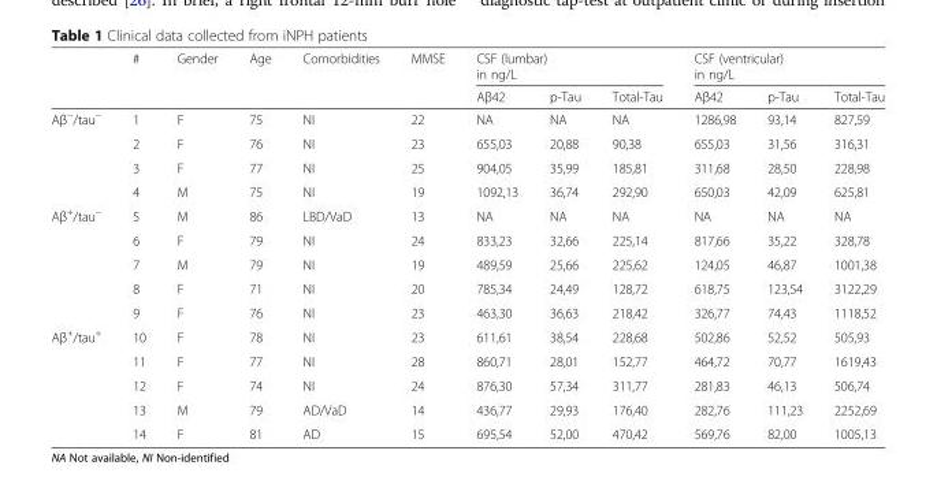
<table><thead><tr><td rowspan="2"></td><td rowspan="2">#</td><td rowspan="2">Gender</td><td rowspan="2">Age</td><td rowspan="2">Comorbidities</td><td rowspan="2">MMSE</td><td colspan="3">CSF (lumbar) in ng/L</td><td colspan="3">CSF (ventricular) in ng/L</td></tr><tr><td>Aβ42</td><td>p-Tau</td><td>Total-Tau</td><td>Aβ42</td><td>p-Tau</td><td>Total-Tau</td></tr></thead><tbody><tr><td rowspan="4">Aβ<sup>−</sup>/tau<sup>−</sup></td><td>1</td><td>F</td><td>75</td><td>NI</td><td>22</td><td>NA</td><td>NA</td><td>NA</td><td>1286,98</td><td>93,14</td><td>827,59</td></tr><tr><td>2</td><td>F</td><td>76</td><td>NI</td><td>23</td><td>655,03</td><td>20,88</td><td>90,38</td><td>655,03</td><td>31,56</td><td>316,31</td></tr><tr><td>3</td><td>F</td><td>77</td><td>NI</td><td>25</td><td>904,05</td><td>35,99</td><td>185,81</td><td>311,68</td><td>28,50</td><td>228,98</td></tr><tr><td>4</td><td>M</td><td>75</td><td>NI</td><td>19</td><td>1092,13</td><td>36,74</td><td>292,90</td><td>650,03</td><td>42,09</td><td>625,81</td></tr><tr><td rowspan="5">Aβ<sup>+</sup>/tau<sup>−</sup></td><td>5</td><td>M</td><td>86</td><td>LBD/VaD</td><td>13</td><td>NA</td><td>NA</td><td>NA</td><td>NA</td><td>NA</td><td>NA</td></tr><tr><td>6</td><td>F</td><td>79</td><td>NI</td><td>24</td><td>833,23</td><td>32,66</td><td>225,14</td><td>817,66</td><td>35,22</td><td>328,78</td></tr><tr><td>7</td><td>M</td><td>79</td><td>NI</td><td>19</td><td>489,59</td><td>25,66</td><td>225,62</td><td>124,05</td><td>46,87</td><td>1001,38</td></tr><tr><td>8</td><td>F</td><td>71</td><td>NI</td><td>20</td><td>785,34</td><td>24,49</td><td>128,72</td><td>618,75</td><td>123,54</td><td>3122,29</td></tr><tr><td>9</td><td>F</td><td>76</td><td>NI</td><td>23</td><td>463,30</td><td>36,63</td><td>218,42</td><td>326,77</td><td>74,43</td><td>1118,52</td></tr><tr><td rowspan="5">Aβ<sup>+</sup>/tau<sup>+</sup></td><td>10</td><td>F</td><td>78</td><td>NI</td><td>23</td><td>611,61</td><td>38,54</td><td>228,68</td><td>502,86</td><td>52,52</td><td>505,93</td></tr><tr><td>11</td><td>F</td><td>77</td><td>NI</td><td>28</td><td>860,71</td><td>28,01</td><td>152,77</td><td>464,72</td><td>70,77</td><td>1619,43</td></tr><tr><td>12</td><td>F</td><td>74</td><td>NI</td><td>24</td><td>876,30</td><td>57,34</td><td>311,77</td><td>281,83</td><td>46,13</td><td>506,74</td></tr><tr><td>13</td><td>M</td><td>79</td><td>AD/VaD</td><td>14</td><td>436,77</td><td>29,93</td><td>176,40</td><td>282,76</td><td>111,23</td><td>2252,69</td></tr><tr><td>14</td><td>F</td><td>81</td><td>AD</td><td>15</td><td>695,54</td><td>52,00</td><td>470,42</td><td>569,76</td><td>82,00</td><td>1005,13</td></tr></tbody></table>